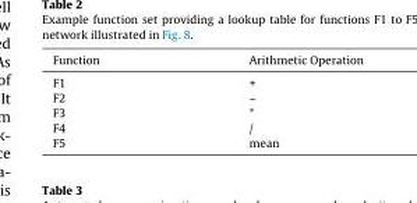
<table><thead><tr><td>Function</td><td>Arithmetic Operation</td></tr></thead><tbody><tr><td>F1</td><td>+</td></tr><tr><td>F2</td><td>–</td></tr><tr><td>F3</td><td>*</td></tr><tr><td>F4</td><td>/</td></tr><tr><td>F5</td><td>mean</td></tr></tbody></table>